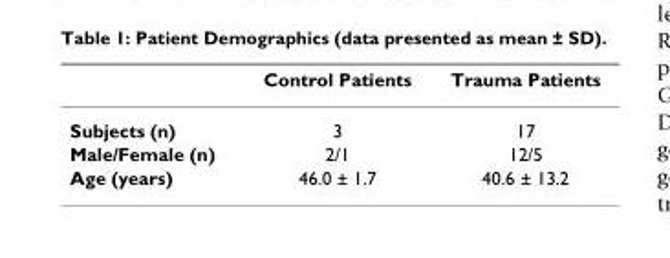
<table><thead><tr><td></td><td>Control Patients</td><td>Trauma Patients</td></tr></thead><tbody><tr><td>Subjects (n)</td><td>3</td><td>17</td></tr><tr><td>Male/Female (n)</td><td>2/1</td><td>12/5</td></tr><tr><td>Age (years)</td><td>46.0 ± 1.7</td><td>40.6 ± 13.2</td></tr></tbody></table>